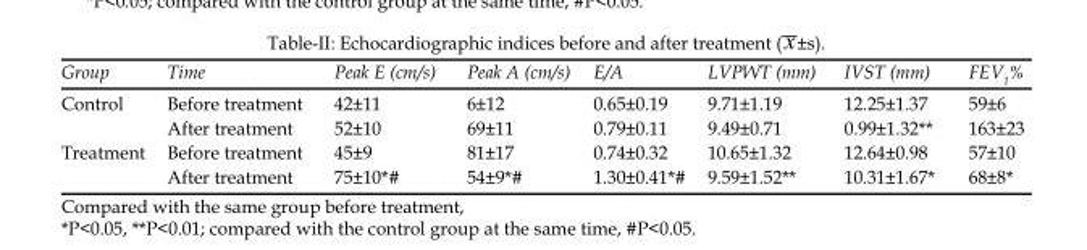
<table><thead><tr><td>Group</td><td>Time</td><td>Peak E (cm/s)</td><td>Peak A (cm/s)</td><td>E/A</td><td>LVPWT (mm)</td><td>IVST (mm)</td><td>FEV<sub>1</sub>%</td></tr></thead><tbody><tr><td rowspan="2">Control</td><td>Before treatment</td><td>42±11</td><td>6±12</td><td>0.65±0.19</td><td>9.71±1.19</td><td>12.25±1.37</td><td>59±6</td></tr><tr><td>After treatment</td><td>52±10</td><td>69±11</td><td>0.79±0.11</td><td>9.49±0.71</td><td>0.99±1.32**</td><td>163±23</td></tr><tr><td rowspan="2">Treatment</td><td>Before treatment</td><td>45±9</td><td>81±17</td><td>0.74±0.32</td><td>10.65±1.32</td><td>12.64±0.98</td><td>57±10</td></tr><tr><td>After treatment</td><td>75±10*#</td><td>54±9*#</td><td>1.30±0.41*#</td><td>9.59±1.52**</td><td>10.31±1.67*</td><td>68±8*</td></tr></tbody></table>